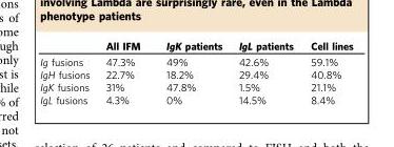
<table><thead><tr><td></td><td>All IFM</td><td>IgK patients</td><td>IgL patients</td><td>Cell lines</td></tr></thead><tbody><tr><td>Ig fusions</td><td>47.3%</td><td>49%</td><td>42.6%</td><td>59.1%</td></tr><tr><td>IgH fusions</td><td>22.7%</td><td>18.2%</td><td>29.4%</td><td>40.8%</td></tr><tr><td>IgK fusions</td><td>31%</td><td>47.8%</td><td>1.5%</td><td>21.1%</td></tr><tr><td>IgL fusions</td><td>4.3%</td><td>0%</td><td>14.5%</td><td>8.4%</td></tr></tbody></table>